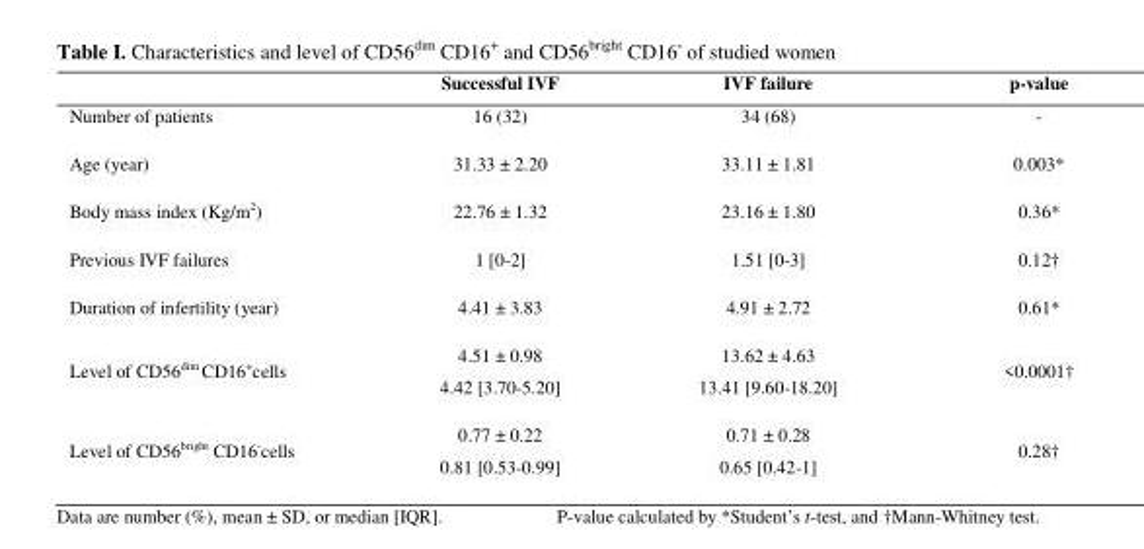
<table><thead><tr><td></td><td>Successful IVF</td><td>IVF failure</td><td>p-value</td></tr></thead><tbody><tr><td>Number of patients</td><td>16 (32)</td><td>34 (68)</td><td>-</td></tr><tr><td>Age (year)</td><td>31.33 ± 2.20</td><td>33.11 ± 1.81</td><td>0.003*</td></tr><tr><td>Body mass index (Kg/m<sup>2</sup>)</td><td>22.76 ± 1.32</td><td>23.16 ± 1.80</td><td>0.36*</td></tr><tr><td>Previous IVF failures</td><td>1 [0-2]</td><td>1.51 [0-3]</td><td>0.12†</td></tr><tr><td>Duration of infertility (year)</td><td>4.41 ± 3.83</td><td>4.91 ± 2.72</td><td>0.61*</td></tr><tr><td>Level of CD56<sup>dim</sup> CD16<sup>+</sup>cells</td><td>4.51 ± 0.98 4.42 [3.70-5.20]</td><td>13.62 ± 4.63 13.41 [9.60-18.20]</td><td>&lt;0.0001†</td></tr><tr><td>Level of CD56bright CD16-cells</td><td>0.77 ± 0.22 0.81 [0.53-0.99]</td><td>0.71 ± 0.28 0.65 [0.42-1]</td><td>0.28†</td></tr></tbody></table>